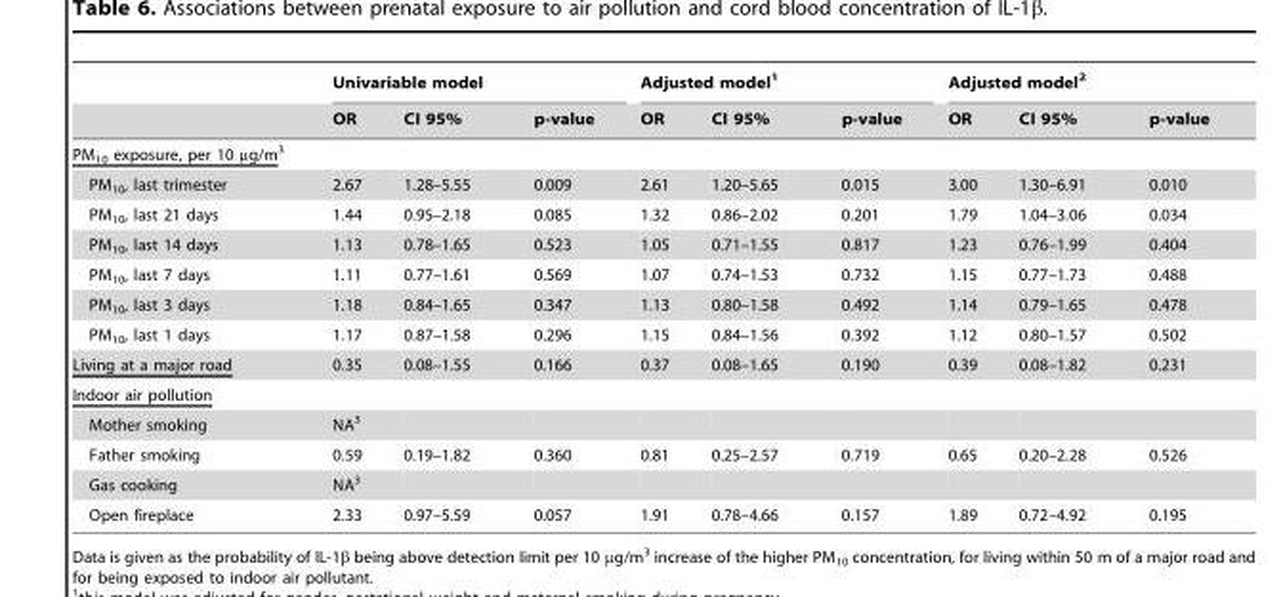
<table><thead><tr><td rowspan="2"></td><td colspan="3">Univariable model</td><td colspan="3">Adjusted model<sup>1</sup></td><td colspan="3">Adjusted model<sup>2</sup></td></tr><tr><td>OR</td><td>CI 95%</td><td>p-value</td><td>OR</td><td>CI 95%</td><td>p-value</td><td>OR</td><td>CI 95%</td><td>p-value</td></tr></thead><tbody><tr><td colspan="10">PM<sub>10</sub> exposure, per 10 µg/m<sup>3</sup></td></tr><tr><td>PM<sub>10</sub>, last trimester</td><td>2.67</td><td>1.28–5.55</td><td>0.009</td><td>2.61</td><td>1.20–5.65</td><td>0.015</td><td>3.00</td><td>1.30–6.91</td><td>0.010</td></tr><tr><td>PM<sub>10</sub>, last 21 days</td><td>1.44</td><td>0.95–2.18</td><td>0.085</td><td>1.32</td><td>0.86–2.02</td><td>0.201</td><td>1.79</td><td>1.04–3.06</td><td>0.034</td></tr><tr><td>PM<sub>10</sub>, last 14 days</td><td>1.13</td><td>0.78–1.65</td><td>0.523</td><td>1.05</td><td>0.71–1.55</td><td>0.817</td><td>1.23</td><td>0.76–1.99</td><td>0.404</td></tr><tr><td>PM<sub>10</sub>, last 7 days</td><td>1.11</td><td>0.77–1.61</td><td>0.569</td><td>1.07</td><td>0.74–1.53</td><td>0.732</td><td>1.15</td><td>0.77–1.73</td><td>0.488</td></tr><tr><td>PM<sub>10</sub>, last 3 days</td><td>1.18</td><td>0.84–1.65</td><td>0.347</td><td>1.13</td><td>0.80–1.58</td><td>0.492</td><td>1.14</td><td>0.79–1.65</td><td>0.478</td></tr><tr><td>PM<sub>10</sub>, last 1 days</td><td>1.17</td><td>0.87–1.58</td><td>0.296</td><td>1.15</td><td>0.84–1.56</td><td>0.392</td><td>1.12</td><td>0.80–1.57</td><td>0.502</td></tr><tr><td>Living at a major road</td><td>0.35</td><td>0.08–1.55</td><td>0.166</td><td>0.37</td><td>0.08–1.65</td><td>0.190</td><td>0.39</td><td>0.08–1.82</td><td>0.231</td></tr><tr><td colspan="10">Indoor air pollution</td></tr><tr><td>Mother smoking</td><td>NA<sup>3</sup></td><td></td><td></td><td></td><td></td><td></td><td></td><td></td><td></td></tr><tr><td>Father smoking</td><td>0.59</td><td>0.19–1.82</td><td>0.360</td><td>0.81</td><td>0.25–2.57</td><td>0.719</td><td>0.65</td><td>0.20–2.28</td><td>0.526</td></tr><tr><td>Gas cooking</td><td>NA<sup>3</sup></td><td></td><td></td><td></td><td></td><td></td><td></td><td></td><td></td></tr><tr><td>Open fireplace</td><td>2.33</td><td>0.97–5.59</td><td>0.057</td><td>1.91</td><td>0.78–4.66</td><td>0.157</td><td>1.89</td><td>0.72–4.92</td><td>0.195</td></tr></tbody></table>